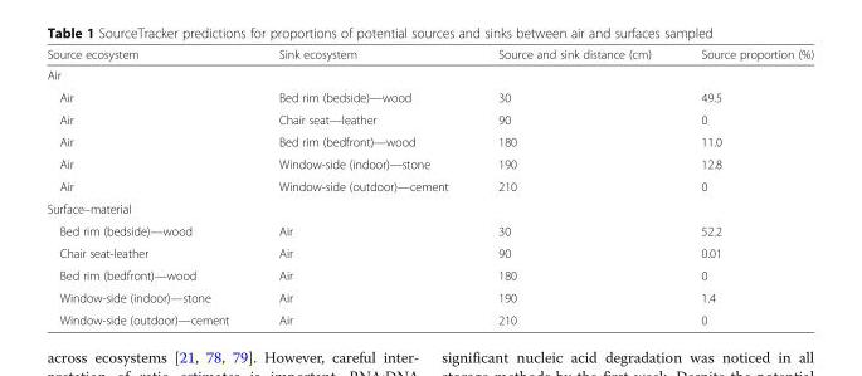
<table><thead><tr><td>Source ecosystem</td><td>Sink ecosystem</td><td>Source and sink distance (cm)</td><td>Source proportion (%)</td></tr></thead><tbody><tr><td colspan="4">Air</td></tr><tr><td>Air</td><td>Bed rim (bedside)—wood</td><td>30</td><td>49.5</td></tr><tr><td>Air</td><td>Chair seat—leather</td><td>90</td><td>0</td></tr><tr><td>Air</td><td>Bed rim (bedfront)—wood</td><td>180</td><td>11.0</td></tr><tr><td>Air</td><td>Window-side (indoor)—stone</td><td>190</td><td>12.8</td></tr><tr><td>Air</td><td>Window-side (outdoor)—cement</td><td>210</td><td>0</td></tr><tr><td colspan="4">Surface–material</td></tr><tr><td>Bed rim (bedside)—wood</td><td>Air</td><td>30</td><td>52.2</td></tr><tr><td>Chair seat-leather</td><td>Air</td><td>90</td><td>0.01</td></tr><tr><td>Bed rim (bedfront)—wood</td><td>Air</td><td>180</td><td>0</td></tr><tr><td>Window-side (indoor)—stone</td><td>Air</td><td>190</td><td>1.4</td></tr><tr><td>Window-side (outdoor)—cement</td><td>Air</td><td>210</td><td>0</td></tr></tbody></table>